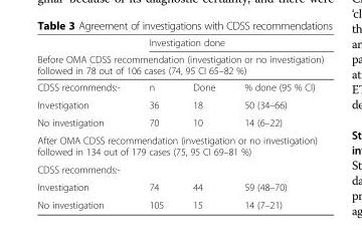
<table><thead><tr><td></td><td colspan="3">Investigation done</td></tr><tr><td colspan="4">Before OMA CDSS recommendation (investigation or no investigation) followed in 78 out of 106 cases (74, 95 CI 65–82 %)</td></tr><tr><td>CDSS recommends:-</td><td>n</td><td>Done</td><td>% done (95 % CI)</td></tr></thead><tbody><tr><td>Investigation</td><td>36</td><td>18</td><td>50 (34–66)</td></tr><tr><td>No investigation</td><td>70</td><td>10</td><td>14 (6–22)</td></tr><tr><td colspan="4">After OMA CDSS recommendation (investigation or no investigation) followed in 134 out of 179 cases (75, 95 CI 69–81 %)</td></tr><tr><td colspan="4">CDSS recommends:-</td></tr><tr><td>Investigation</td><td>74</td><td>44</td><td>59 (48–70)</td></tr><tr><td>No investigation</td><td>105</td><td>15</td><td>14 (7–21)</td></tr></tbody></table>